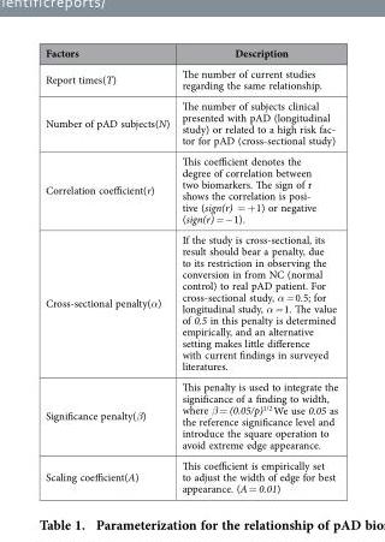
<table><thead><tr><td>Factors</td><td>Description</td></tr></thead><tbody><tr><td>Report times(T)</td><td>The number of current studies regarding the same relationship.</td></tr><tr><td>Number of pAD subjects(N)</td><td>The number of subjects clinical presented with pAD (longitudinal study) or related to a high risk fac- tor for pAD (cross-sectional study)</td></tr><tr><td>Correlation coefficient(r)</td><td>This coefficient denotes the degree of correlation between two biomarkers. The sign of r shows the correlation is posi- tive (sign(r) = + 1) or negative (sign(r) = − 1).</td></tr><tr><td>Cross-sectional penalty(α)</td><td>If the study is cross-sectional, its result should bear a penalty, due to its restriction in observing the conversion in from NC (normal control) to real pAD patient. For cross-sectional study, α = 0.5; for longitudinal study, α = 1. The value of 0.5 in this penalty is determined empirically, and an alternative setting makes little difference with current findings in surveyed literatures.</td></tr><tr><td>Significance penalty(β)</td><td>This penalty is used to integrate the significance of a finding to width, where β = (0.05/p)<sup>1</sup>/2.We use 0.05 as the reference significance level and introduce the square operation to avoid extreme edge appearance.</td></tr><tr><td>Scaling coefficient(A)</td><td>This coefficient is empirically set to adjust the width of edge for best appearance. (A = 0.01)</td></tr></tbody></table>